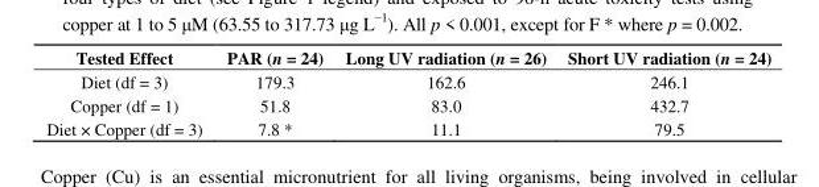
<table><thead><tr><td>Tested Effect</td><td>PAR (n = 24)</td><td>Long UV radiation (n = 26)</td><td>Short UV radiation (n = 24)</td></tr></thead><tbody><tr><td>Diet (df = 3)</td><td>179.3</td><td>162.6</td><td>246.1</td></tr><tr><td>Copper (df = 1)</td><td>51.8</td><td>83.0</td><td>432.7</td></tr><tr><td>Diet × Copper (df = 3)</td><td>7.8 *</td><td>11.1</td><td>79.5</td></tr></tbody></table>